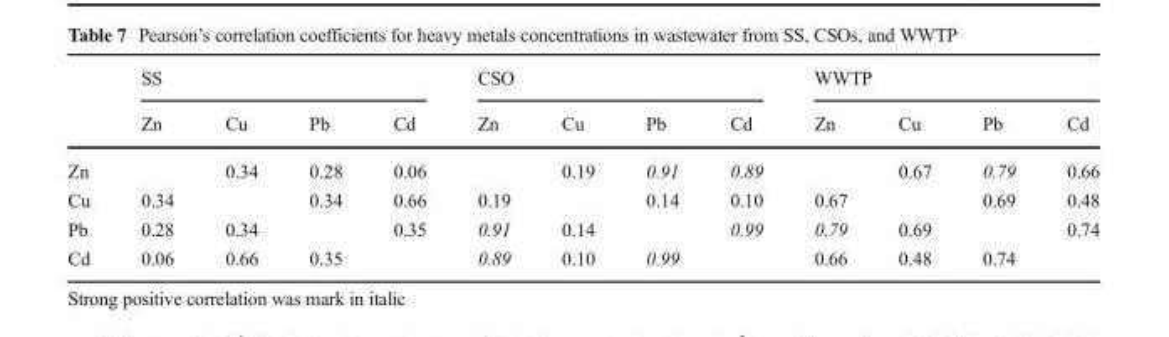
<table><thead><tr><td rowspan="2"></td><td colspan="4">SS</td><td colspan="4">CSO</td><td colspan="4">WWTP</td></tr><tr><td>Zn</td><td>Cu</td><td>Pb</td><td>Cd</td><td>Zn</td><td>Cu</td><td>Pb</td><td>Cd</td><td>Zn</td><td>Cu</td><td>Pb</td><td>Cd</td></tr></thead><tbody><tr><td>Zn</td><td></td><td>0.34</td><td>0.28</td><td>0.06</td><td></td><td>0.19</td><td>0.91</td><td>0.89</td><td></td><td>0.67</td><td>0.79</td><td>0.66</td></tr><tr><td>Cu</td><td>0.34</td><td></td><td>0.34</td><td>0.66</td><td>0.19</td><td></td><td>0.14</td><td>0.10</td><td>0.67</td><td></td><td>0.69</td><td>0.48</td></tr><tr><td>Pb</td><td>0.28</td><td>0.34</td><td></td><td>0.35</td><td>0.91</td><td>0.14</td><td></td><td>0.99</td><td>0.79</td><td>0.69</td><td></td><td>0.74</td></tr><tr><td>Cd</td><td>0.06</td><td>0.66</td><td>0.35</td><td></td><td>0.89</td><td>0.10</td><td>0.99</td><td></td><td>0.66</td><td>0.48</td><td>0.74</td><td></td></tr></tbody></table>